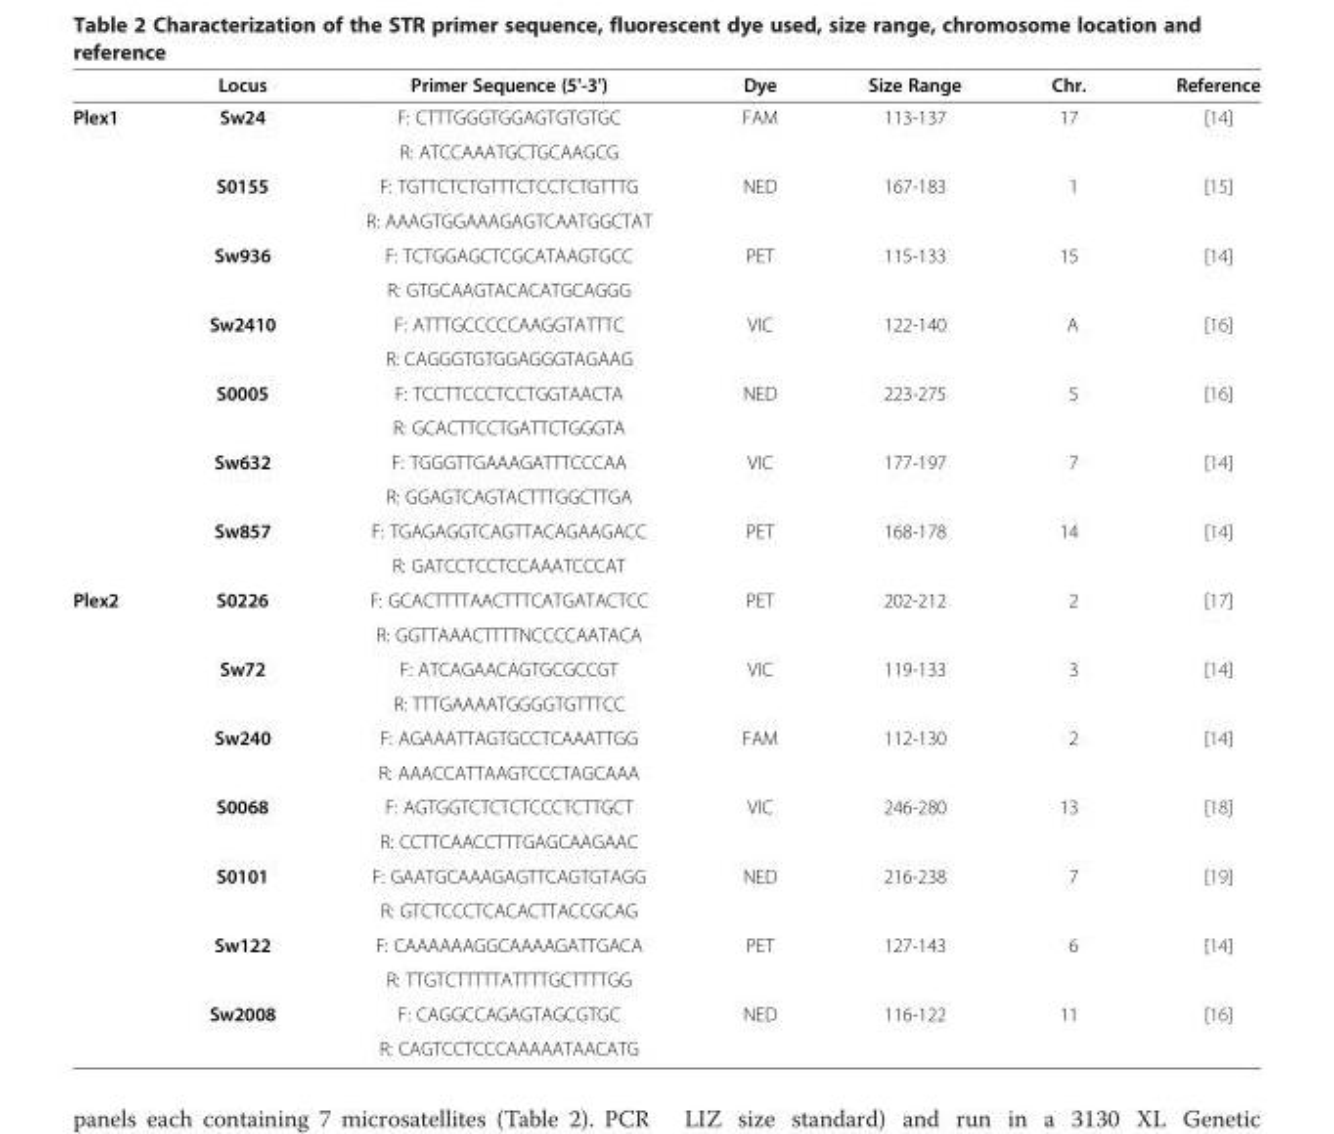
<table><thead><tr><td></td><td>Locus</td><td>Primer Sequence (5&#x27;-3&#x27;)</td><td>Dye</td><td>Size Range</td><td>Chr.</td><td>Reference</td></tr></thead><tbody><tr><td rowspan="14">Plex1</td><td>Sw24</td><td>F: CTTTGGGTGGAGTGTGTGC</td><td>FAM</td><td>113-137</td><td>17</td><td>[14]</td></tr><tr><td></td><td>R: ATCCAAATGCTGCAAGCG</td><td></td><td></td><td></td><td></td></tr><tr><td>S0155</td><td>F: TGTTCTCTGTTTCTCCTCTGTTTG</td><td>NED</td><td>167-183</td><td>1</td><td>[15]</td></tr><tr><td></td><td>R: AAAGTGGAAAGAGTCAATGGCTAT</td><td></td><td></td><td></td><td></td></tr><tr><td>Sw936</td><td>F: TCTGGAGCTCGCATAAGTGCC</td><td>PET</td><td>115-133</td><td>15</td><td>[14]</td></tr><tr><td></td><td>R: GTGCAAGTACACATGCAGGG</td><td></td><td></td><td></td><td></td></tr><tr><td>Sw2410</td><td>F: ATTTGCCCCCAAGGTATTTC</td><td>VIC</td><td>122-140</td><td>A</td><td>[16]</td></tr><tr><td></td><td>R: CAGGGTGTGGAGGGTAGAAG</td><td></td><td></td><td></td><td></td></tr><tr><td>S0005</td><td>F: TCCTTCCCTCCTGGTAACTA</td><td>NED</td><td>223-275</td><td>5</td><td>[16]</td></tr><tr><td></td><td>R: GCACTTCCTGATTCTGGGTA</td><td></td><td></td><td></td><td></td></tr><tr><td>Sw632</td><td>F: TGGGTTGAAAGATTTCCCAA</td><td>VIC</td><td>177-197</td><td>7</td><td>[14]</td></tr><tr><td></td><td>R: GGAGTCAGTACTTTGGCTTGA</td><td></td><td></td><td></td><td></td></tr><tr><td>Sw857</td><td>F: TGAGAGGTCAGTTACAGAAGACC</td><td>PET</td><td>168-178</td><td>14</td><td>[14]</td></tr><tr><td></td><td>R: GATCCTCCTCCAAATCCCAT</td><td></td><td></td><td></td><td></td></tr><tr><td rowspan="14">Plex2</td><td>S0226</td><td>F: GCACTTTTAACTTTCATGATACTCC</td><td>PET</td><td>202-212</td><td>2</td><td>[17]</td></tr><tr><td></td><td>R: GGTTAAACTTTTNCCCCAATACA</td><td></td><td></td><td></td><td></td></tr><tr><td>Sw72</td><td>F: ATCAGAACAGTGCGCCGT</td><td>VIC</td><td>119-133</td><td>3</td><td>[14]</td></tr><tr><td></td><td>R: TTTGAAAATGGGGTGTTTCC</td><td></td><td></td><td></td><td></td></tr><tr><td>Sw240</td><td>F: AGAAATTAGTGCCTCAAATTGG</td><td>FAM</td><td>112-130</td><td>2</td><td>[14]</td></tr><tr><td></td><td>R: AAACCATTAAGTCCCTAGCAAA</td><td></td><td></td><td></td><td></td></tr><tr><td>S0068</td><td>F: AGTGGTCTCTCTCCCTCTTGCT</td><td>VIC</td><td>246-280</td><td>13</td><td>[18]</td></tr><tr><td></td><td>R: CCTTCAACCTTTGAGCAAGAAC</td><td></td><td></td><td></td><td></td></tr><tr><td>S0101</td><td>F: GAATGCAAAGAGTTCAGTGTAGG</td><td>NED</td><td>216-238</td><td>7</td><td>[19]</td></tr><tr><td></td><td>R: GTCTCCCTCACACTTACCGCAG</td><td></td><td></td><td></td><td></td></tr><tr><td>Sw122</td><td>F: CAAAAAAGGCAAAAGATTGACA</td><td>PET</td><td>127-143</td><td>6</td><td>[14]</td></tr><tr><td></td><td>R: TTGTCTTTTTATTTTGCTTTTGG</td><td></td><td></td><td></td><td></td></tr><tr><td>Sw2008</td><td>F: CAGGCCAGAGTAGCGTGC</td><td>NED</td><td>116-122</td><td>11</td><td>[16]</td></tr><tr><td></td><td>R: CAGTCCTCCCAAAAATAACATG</td><td></td><td></td><td></td><td></td></tr></tbody></table>